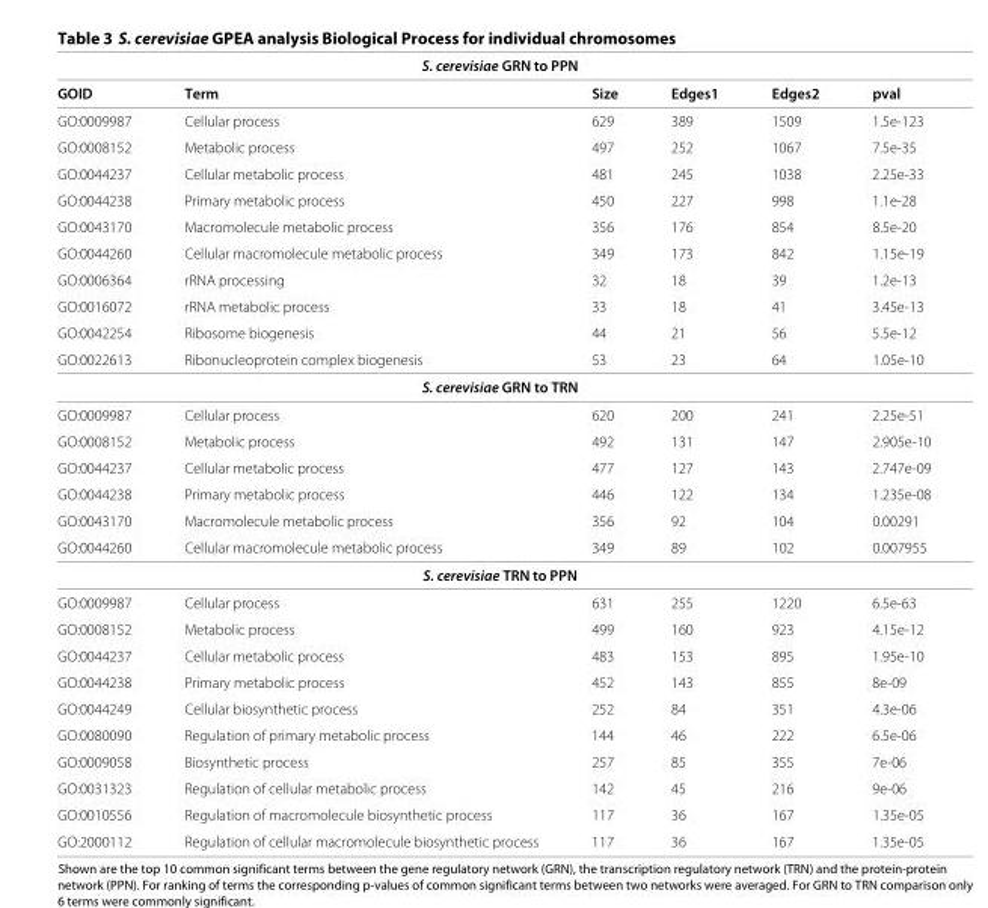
<table><thead><tr><td colspan="6">S. cerevisiae GRN to PPN</td></tr><tr><td>GOID</td><td>Term</td><td>Size</td><td>Edges1</td><td>Edges2</td><td>pval</td></tr></thead><tbody><tr><td>GO:0009987</td><td>Cellular process</td><td>629</td><td>389</td><td>1509</td><td>1.5e-123</td></tr><tr><td>GO:0008152</td><td>Metabolic process</td><td>497</td><td>252</td><td>1067</td><td>7.5e-35</td></tr><tr><td>GO:0044237</td><td>Cellular metabolic process</td><td>481</td><td>245</td><td>1038</td><td>2.25e-33</td></tr><tr><td>GO:0044238</td><td>Primary metabolic process</td><td>450</td><td>227</td><td>998</td><td>1.1e-28</td></tr><tr><td>GO:0043170</td><td>Macromolecule metabolic process</td><td>356</td><td>176</td><td>854</td><td>8.5e-20</td></tr><tr><td>GO:0044260</td><td>Cellular macromolecule metabolic process</td><td>349</td><td>173</td><td>842</td><td>1.15e-19</td></tr><tr><td>GO:0006364</td><td>rRNA processing</td><td>32</td><td>18</td><td>39</td><td>1.2e-13</td></tr><tr><td>GO:0016072</td><td>rRNA metabolic process</td><td>33</td><td>18</td><td>41</td><td>3.45e-13</td></tr><tr><td>GO:0042254</td><td>Ribosome biogenesis</td><td>44</td><td>21</td><td>56</td><td>5.5e-12</td></tr><tr><td>GO:0022613</td><td>Ribonucleoprotein complex biogenesis</td><td>53</td><td>23</td><td>64</td><td>1.05e-10</td></tr><tr><td colspan="6">S. cerevisiae GRN to TRN</td></tr><tr><td>GO:0009987</td><td>Cellular process</td><td>620</td><td>200</td><td>241</td><td>2.25e-51</td></tr><tr><td>GO:0008152</td><td>Metabolic process</td><td>492</td><td>131</td><td>147</td><td>2.905e-10</td></tr><tr><td>GO:0044237</td><td>Cellular metabolic process</td><td>477</td><td>127</td><td>143</td><td>2.747e-09</td></tr><tr><td>GO:0044238</td><td>Primary metabolic process</td><td>446</td><td>122</td><td>134</td><td>1.235e-08</td></tr><tr><td>GO:0043170</td><td>Macromolecule metabolic process</td><td>356</td><td>92</td><td>104</td><td>0.00291</td></tr><tr><td>GO:0044260</td><td>Cellular macromolecule metabolic process</td><td>349</td><td>89</td><td>102</td><td>0.007955</td></tr><tr><td colspan="6">S. cerevisiae TRN to PPN</td></tr><tr><td>GO:0009987</td><td>Cellular process</td><td>631</td><td>255</td><td>1220</td><td>6.5e-63</td></tr><tr><td>GO:0008152</td><td>Metabolic process</td><td>499</td><td>160</td><td>923</td><td>4.15e-12</td></tr><tr><td>GO:0044237</td><td>Cellular metabolic process</td><td>483</td><td>153</td><td>895</td><td>1.95e-10</td></tr><tr><td>GO:0044238</td><td>Primary metabolic process</td><td>452</td><td>143</td><td>855</td><td>8e-09</td></tr><tr><td>GO:0044249</td><td>Cellular biosynthetic process</td><td>252</td><td>84</td><td>351</td><td>4.3e-06</td></tr><tr><td>GO:0080090</td><td>Regulation of primary metabolic process</td><td>144</td><td>46</td><td>222</td><td>6.5e-06</td></tr><tr><td>GO:0009058</td><td>Biosynthetic process</td><td>257</td><td>85</td><td>355</td><td>7e-06</td></tr><tr><td>GO:0031323</td><td>Regulation of cellular metabolic process</td><td>142</td><td>45</td><td>216</td><td>9e-06</td></tr><tr><td>GO:0010556</td><td>Regulation of macromolecule biosynthetic process</td><td>117</td><td>36</td><td>167</td><td>1.35e-05</td></tr><tr><td>GO:2000112</td><td>Regulation of cellular macromolecule biosynthetic process</td><td>117</td><td>36</td><td>167</td><td>1.35e-05</td></tr></tbody></table>